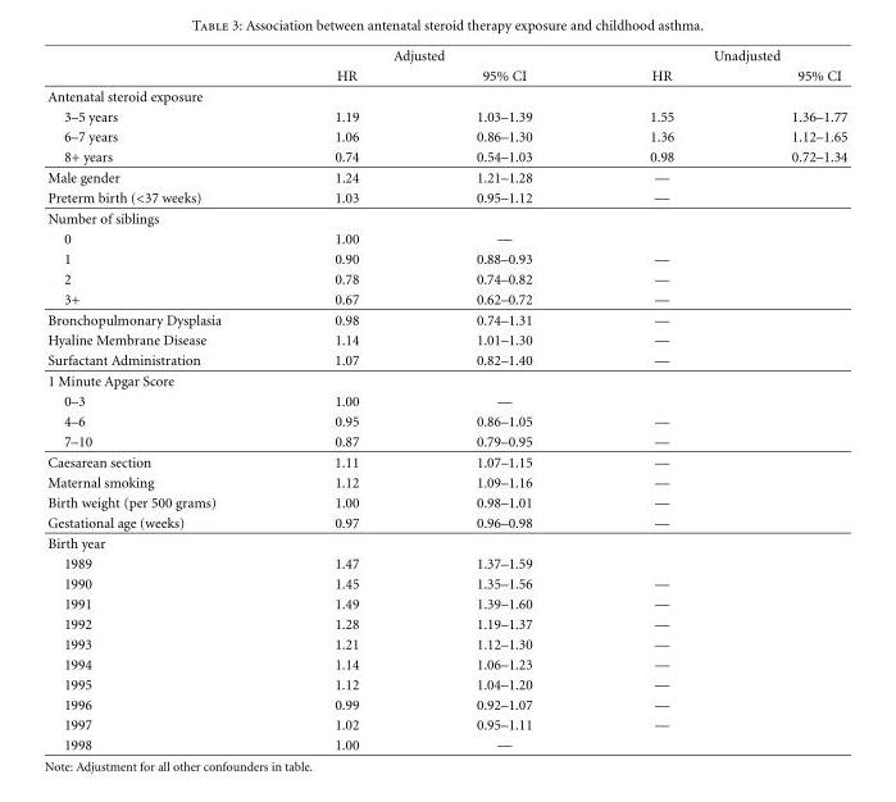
<table><thead><tr><td rowspan="2"></td><td colspan="2">Adjusted</td><td colspan="2">Unadjusted</td></tr><tr><td>HR</td><td>95% CI</td><td>HR</td><td>95% CI</td></tr></thead><tbody><tr><td colspan="5">Antenatal steroid exposure</td></tr><tr><td>3–5 years</td><td>1.19</td><td>1.03–1.39</td><td>1.55</td><td>1.36–1.77</td></tr><tr><td>6–7 years</td><td>1.06</td><td>0.86–1.30</td><td>1.36</td><td>1.12–1.65</td></tr><tr><td>8+ years</td><td>0.74</td><td>0.54–1.03</td><td>0.98</td><td>0.72–1.34</td></tr><tr><td>Male gender</td><td>1.24</td><td>1.21–1.28</td><td>—</td><td></td></tr><tr><td>Preterm birth (&lt;37 weeks)</td><td>1.03</td><td>0.95–1.12</td><td>—</td><td></td></tr><tr><td colspan="5">Number of siblings</td></tr><tr><td>0</td><td>1.00</td><td>—</td><td></td><td></td></tr><tr><td>1</td><td>0.90</td><td>0.88–0.93</td><td>—</td><td></td></tr><tr><td>2</td><td>0.78</td><td>0.74–0.82</td><td>—</td><td></td></tr><tr><td>3+</td><td>0.67</td><td>0.62–0.72</td><td>—</td><td></td></tr><tr><td>Bronchopulmonary Dysplasia</td><td>0.98</td><td>0.74–1.31</td><td>—</td><td></td></tr><tr><td>Hyaline Membrane Disease</td><td>1.14</td><td>1.01–1.30</td><td>—</td><td></td></tr><tr><td>Surfactant Administration</td><td>1.07</td><td>0.82–1.40</td><td>—</td><td></td></tr><tr><td colspan="5">1 Minute Apgar Score</td></tr><tr><td>0–3</td><td>1.00</td><td>—</td><td></td><td></td></tr><tr><td>4–6</td><td>0.95</td><td>0.86–1.05</td><td>—</td><td></td></tr><tr><td>7–10</td><td>0.87</td><td>0.79–0.95</td><td>—</td><td></td></tr><tr><td>Caesarean section</td><td>1.11</td><td>1.07–1.15</td><td>—</td><td></td></tr><tr><td>Maternal smoking</td><td>1.12</td><td>1.09–1.16</td><td>—</td><td></td></tr><tr><td>Birth weight (per 500 grams)</td><td>1.00</td><td>0.98–1.01</td><td>—</td><td></td></tr><tr><td>Gestational age (weeks)</td><td>0.97</td><td>0.96–0.98</td><td>—</td><td></td></tr><tr><td colspan="5">Birth year</td></tr><tr><td>1989</td><td>1.47</td><td>1.37–1.59</td><td></td><td></td></tr><tr><td>1990</td><td>1.45</td><td>1.35–1.56</td><td>—</td><td></td></tr><tr><td>1991</td><td>1.49</td><td>1.39–1.60</td><td>—</td><td></td></tr><tr><td>1992</td><td>1.28</td><td>1.19–1.37</td><td>—</td><td></td></tr><tr><td>1993</td><td>1.21</td><td>1.12–1.30</td><td>—</td><td></td></tr><tr><td>1994</td><td>1.14</td><td>1.06–1.23</td><td>—</td><td></td></tr><tr><td>1995</td><td>1.12</td><td>1.04–1.20</td><td>—</td><td></td></tr><tr><td>1996</td><td>0.99</td><td>0.92–1.07</td><td>—</td><td></td></tr><tr><td>1997</td><td>1.02</td><td>0.95–1.11</td><td>—</td><td></td></tr><tr><td>1998</td><td>1.00</td><td>—</td><td></td><td></td></tr></tbody></table>